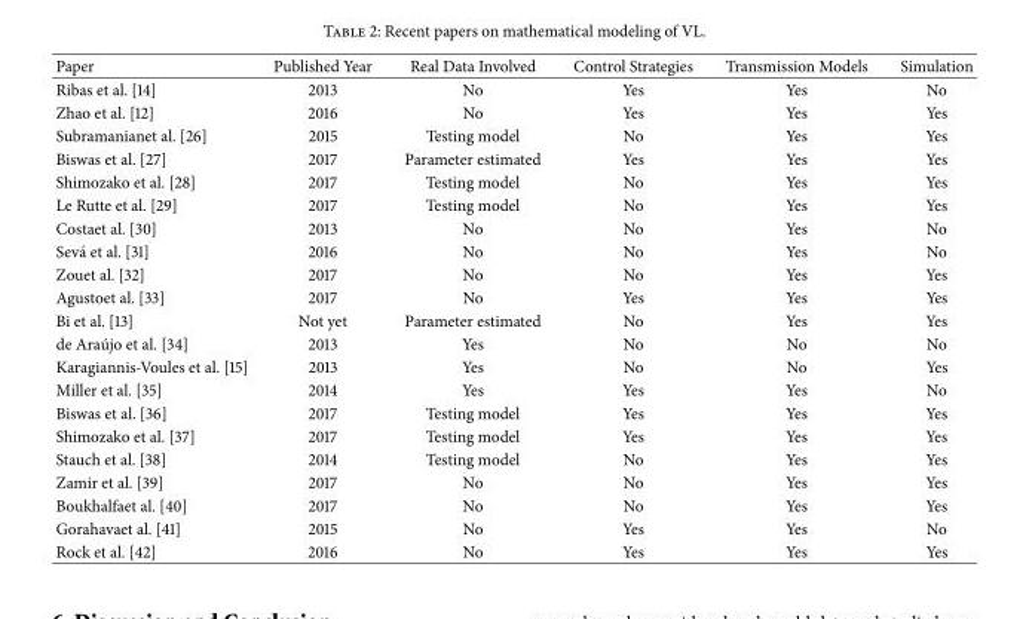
<table><thead><tr><td>Paper</td><td>Published Year</td><td>Real Data Involved</td><td>Control Strategies</td><td>Transmission Models</td><td>Simulation</td></tr></thead><tbody><tr><td>Ribas et al. [14]</td><td>2013</td><td>No</td><td>Yes</td><td>Yes</td><td>No</td></tr><tr><td>Zhao et al. [12]</td><td>2016</td><td>No</td><td>Yes</td><td>Yes</td><td>Yes</td></tr><tr><td>Subramanianet al. [26]</td><td>2015</td><td>Testing model</td><td>No</td><td>Yes</td><td>Yes</td></tr><tr><td>Biswas et al. [27]</td><td>2017</td><td>Parameter estimated</td><td>Yes</td><td>Yes</td><td>Yes</td></tr><tr><td>Shimozako et al. [28]</td><td>2017</td><td>Testing model</td><td>No</td><td>Yes</td><td>Yes</td></tr><tr><td>Le Rutte et al. [29]</td><td>2017</td><td>Testing model</td><td>No</td><td>Yes</td><td>Yes</td></tr><tr><td>Costaet al. [30]</td><td>2013</td><td>No</td><td>No</td><td>Yes</td><td>No</td></tr><tr><td>Sev´a et al. [31]</td><td>2016</td><td>No</td><td>No</td><td>Yes</td><td>No</td></tr><tr><td>Zouet al. [32]</td><td>2017</td><td>No</td><td>No</td><td>Yes</td><td>Yes</td></tr><tr><td>Agustoet al. [33]</td><td>2017</td><td>No</td><td>Yes</td><td>Yes</td><td>Yes</td></tr><tr><td>Bi et al. [13]</td><td>Not yet</td><td>Parameter estimated</td><td>No</td><td>Yes</td><td>Yes</td></tr><tr><td>de Ara´ujo et al. [34]</td><td>2013</td><td>Yes</td><td>No</td><td>No</td><td>No</td></tr><tr><td>Karagiannis-Voules et al. [15]</td><td>2013</td><td>Yes</td><td>No</td><td>No</td><td>Yes</td></tr><tr><td>Miller et al. [35]</td><td>2014</td><td>Yes</td><td>Yes</td><td>Yes</td><td>No</td></tr><tr><td>Biswas et al. [36]</td><td>2017</td><td>Testing model</td><td>Yes</td><td>Yes</td><td>Yes</td></tr><tr><td>Shimozako et al. [37]</td><td>2017</td><td>Testing model</td><td>Yes</td><td>Yes</td><td>Yes</td></tr><tr><td>Stauch et al. [38]</td><td>2014</td><td>Testing model</td><td>No</td><td>Yes</td><td>Yes</td></tr><tr><td>Zamir et al. [39]</td><td>2017</td><td>No</td><td>No</td><td>Yes</td><td>Yes</td></tr><tr><td>Boukhalfaet al. [40]</td><td>2017</td><td>No</td><td>No</td><td>Yes</td><td>Yes</td></tr><tr><td>Gorahavaet al. [41]</td><td>2015</td><td>No</td><td>Yes</td><td>Yes</td><td>No</td></tr><tr><td>Rock et al. [42]</td><td>2016</td><td>No</td><td>Yes</td><td>Yes</td><td>Yes</td></tr></tbody></table>